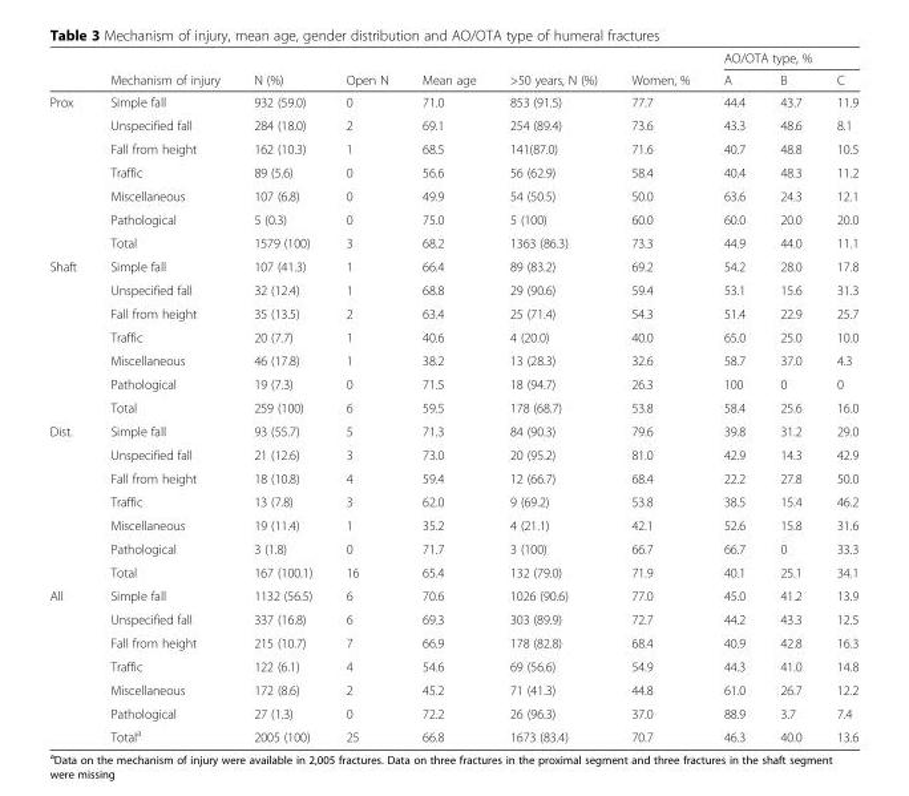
<table><thead><tr><td rowspan="2"></td><td rowspan="2">Mechanism of injury</td><td rowspan="2">N (%)</td><td rowspan="2">Open N</td><td rowspan="2">Mean age</td><td rowspan="2">&gt;50 years, N (%)</td><td rowspan="2">Women, %</td><td colspan="3">AO/OTA type, %</td></tr><tr><td>A</td><td>B</td><td>C</td></tr></thead><tbody><tr><td rowspan="7">Prox</td><td>Simple fall</td><td>932 (59.0)</td><td>0</td><td>71.0</td><td>853 (91.5)</td><td>77.7</td><td>44.4</td><td>43.7</td><td>11.9</td></tr><tr><td>Unspecified fall</td><td>284 (18.0)</td><td>2</td><td>69.1</td><td>254 (89.4)</td><td>73.6</td><td>43.3</td><td>48.6</td><td>8.1</td></tr><tr><td>Fall from height</td><td>162 (10.3)</td><td>1</td><td>68.5</td><td>141(87.0)</td><td>71.6</td><td>40.7</td><td>48.8</td><td>10.5</td></tr><tr><td>Traffic</td><td>89 (5.6)</td><td>0</td><td>56.6</td><td>56 (62.9)</td><td>58.4</td><td>40.4</td><td>48.3</td><td>11.2</td></tr><tr><td>Miscellaneous</td><td>107 (6.8)</td><td>0</td><td>49.9</td><td>54 (50.5)</td><td>50.0</td><td>63.6</td><td>24.3</td><td>12.1</td></tr><tr><td>Pathological</td><td>5 (0.3)</td><td>0</td><td>75.0</td><td>5 (100)</td><td>60.0</td><td>60.0</td><td>20.0</td><td>20.0</td></tr><tr><td>Total</td><td>1579 (100)</td><td>3</td><td>68.2</td><td>1363 (86.3)</td><td>73.3</td><td>44.9</td><td>44.0</td><td>11.1</td></tr><tr><td rowspan="7">Shaft</td><td>Simple fall</td><td>107 (41.3)</td><td>1</td><td>66.4</td><td>89 (83.2)</td><td>69.2</td><td>54.2</td><td>28.0</td><td>17.8</td></tr><tr><td>Unspecified fall</td><td>32 (12.4)</td><td>1</td><td>68.8</td><td>29 (90.6)</td><td>59.4</td><td>53.1</td><td>15.6</td><td>31.3</td></tr><tr><td>Fall from height</td><td>35 (13.5)</td><td>2</td><td>63.4</td><td>25 (71.4)</td><td>54.3</td><td>51.4</td><td>22.9</td><td>25.7</td></tr><tr><td>Traffic</td><td>20 (7.7)</td><td>1</td><td>40.6</td><td>4 (20.0)</td><td>40.0</td><td>65.0</td><td>25.0</td><td>10.0</td></tr><tr><td>Miscellaneous</td><td>46 (17.8)</td><td>1</td><td>38.2</td><td>13 (28.3)</td><td>32.6</td><td>58.7</td><td>37.0</td><td>4.3</td></tr><tr><td>Pathological</td><td>19 (7.3)</td><td>0</td><td>71.5</td><td>18 (94.7)</td><td>26.3</td><td>100</td><td>0</td><td>0</td></tr><tr><td>Total</td><td>259 (100)</td><td>6</td><td>59.5</td><td>178 (68.7)</td><td>53.8</td><td>58.4</td><td>25.6</td><td>16.0</td></tr><tr><td rowspan="7">Dist.</td><td>Simple fall</td><td>93 (55.7)</td><td>5</td><td>71.3</td><td>84 (90.3)</td><td>79.6</td><td>39.8</td><td>31.2</td><td>29.0</td></tr><tr><td>Unspecified fall</td><td>21 (12.6)</td><td>3</td><td>73.0</td><td>20 (95.2)</td><td>81.0</td><td>42.9</td><td>14.3</td><td>42.9</td></tr><tr><td>Fall from height</td><td>18 (10.8)</td><td>4</td><td>59.4</td><td>12 (66.7)</td><td>68.4</td><td>22.2</td><td>27.8</td><td>50.0</td></tr><tr><td>Traffic</td><td>13 (7.8)</td><td>3</td><td>62.0</td><td>9 (69.2)</td><td>53.8</td><td>38.5</td><td>15.4</td><td>46.2</td></tr><tr><td>Miscellaneous</td><td>19 (11.4)</td><td>1</td><td>35.2</td><td>4 (21.1)</td><td>42.1</td><td>52.6</td><td>15.8</td><td>31.6</td></tr><tr><td>Pathological</td><td>3 (1.8)</td><td>0</td><td>71.7</td><td>3 (100)</td><td>66.7</td><td>66.7</td><td>0</td><td>33.3</td></tr><tr><td>Total</td><td>167 (100.1)</td><td>16</td><td>65.4</td><td>132 (79.0)</td><td>71.9</td><td>40.1</td><td>25.1</td><td>34.1</td></tr><tr><td rowspan="7">All</td><td>Simple fall</td><td>1132 (56.5)</td><td>6</td><td>70.6</td><td>1026 (90.6)</td><td>77.0</td><td>45.0</td><td>41.2</td><td>13.9</td></tr><tr><td>Unspecified fall</td><td>337 (16.8)</td><td>6</td><td>69.3</td><td>303 (89.9)</td><td>72.7</td><td>44.2</td><td>43.3</td><td>12.5</td></tr><tr><td>Fall from height</td><td>215 (10.7)</td><td>7</td><td>66.9</td><td>178 (82.8)</td><td>68.4</td><td>40.9</td><td>42.8</td><td>16.3</td></tr><tr><td>Traffic</td><td>122 (6.1)</td><td>4</td><td>54.6</td><td>69 (56.6)</td><td>54.9</td><td>44.3</td><td>41.0</td><td>14.8</td></tr><tr><td>Miscellaneous</td><td>172 (8.6)</td><td>2</td><td>45.2</td><td>71 (41.3)</td><td>44.8</td><td>61.0</td><td>26.7</td><td>12.2</td></tr><tr><td>Pathological</td><td>27 (1.3)</td><td>0</td><td>72.2</td><td>26 (96.3)</td><td>37.0</td><td>88.9</td><td>3.7</td><td>7.4</td></tr><tr><td>Total<sup>a</sup></td><td>2005 (100)</td><td>25</td><td>66.8</td><td>1673 (83.4)</td><td>70.7</td><td>46.3</td><td>40.0</td><td>13.6</td></tr></tbody></table>